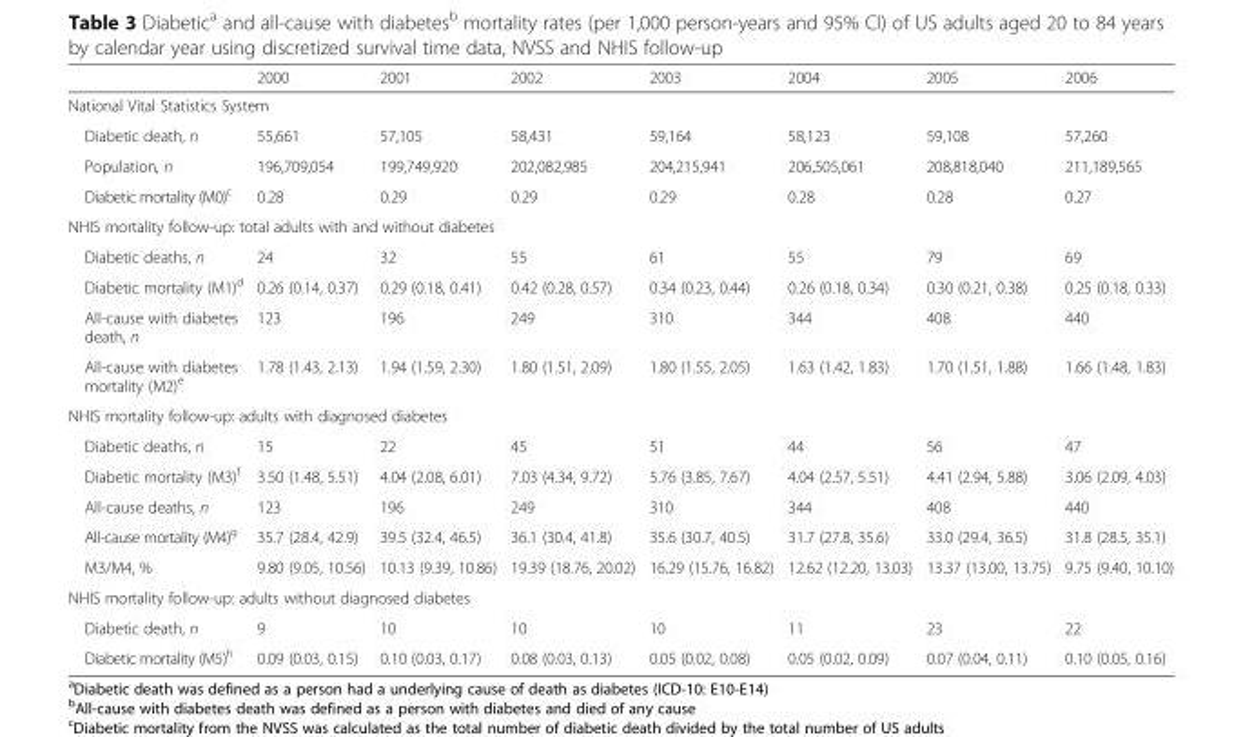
<table><thead><tr><td></td><td>2000</td><td>2001</td><td>2002</td><td>2003</td><td>2004</td><td>2005</td><td>2006</td></tr></thead><tbody><tr><td colspan="8">National Vital Statistics System</td></tr><tr><td>Diabetic death, n</td><td>55,661</td><td>57,105</td><td>58,431</td><td>59,164</td><td>58,123</td><td>59,108</td><td>57,260</td></tr><tr><td>Population, n</td><td>196,709,054</td><td>199,749,920</td><td>202,082,985</td><td>204,215,941</td><td>206,505,061</td><td>208,818,040</td><td>211,189,565</td></tr><tr><td>Diabetic mortality (M0)<sup>c</sup></td><td>0.28</td><td>0.29</td><td>0.29</td><td>0.29</td><td>0.28</td><td>0.28</td><td>0.27</td></tr><tr><td colspan="8">NHIS mortality follow-up: total adults with and without diabetes</td></tr><tr><td>Diabetic deaths, n</td><td>24</td><td>32</td><td>55</td><td>61</td><td>55</td><td>79</td><td>69</td></tr><tr><td>Diabetic mortality (M1)<sup>d</sup></td><td>0.26 (0.14, 0.37)</td><td>0.29 (0.18, 0.41)</td><td>0.42 (0.28, 0.57)</td><td>0.34 (0.23, 0.44)</td><td>0.26 (0.18, 0.34)</td><td>0.30 (0.21, 0.38)</td><td>0.25 (0.18, 0.33)</td></tr><tr><td>All-cause with diabetes death, n</td><td>123</td><td>196</td><td>249</td><td>310</td><td>344</td><td>408</td><td>440</td></tr><tr><td>All-cause with diabetes mortality (M2)<sup>e</sup></td><td>1.78 (1.43, 2.13)</td><td>1.94 (1.59, 2.30)</td><td>1.80 (1.51, 2.09)</td><td>1.80 (1.55, 2.05)</td><td>1.63 (1.42, 1.83)</td><td>1.70 (1.51, 1.88)</td><td>1.66 (1.48, 1.83)</td></tr><tr><td colspan="8">NHIS mortality follow-up: adults with diagnosed diabetes</td></tr><tr><td>Diabetic deaths, n</td><td>15</td><td>22</td><td>45</td><td>51</td><td>44</td><td>56</td><td>47</td></tr><tr><td>Diabetic mortality (M3)<sup>f</sup></td><td>3.50 (1.48, 5.51)</td><td>4.04 (2.08, 6.01)</td><td>7.03 (4.34, 9.72)</td><td>5.76 (3.85, 7.67)</td><td>4.04 (2.57, 5.51)</td><td>4.41 (2.94, 5.88)</td><td>3.06 (2.09, 4.03)</td></tr><tr><td>All-cause deaths, n</td><td>123</td><td>196</td><td>249</td><td>310</td><td>344</td><td>408</td><td>440</td></tr><tr><td>All-cause mortality (M4)<sup>g</sup></td><td>35.7 (28.4, 42.9)</td><td>39.5 (32.4, 46.5)</td><td>36.1 (30.4, 41.8)</td><td>35.6 (30.7, 40.5)</td><td>31.7 (27.8, 35.6)</td><td>33.0 (29.4, 36.5)</td><td>31.8 (28.5, 35.1)</td></tr><tr><td>M3/M4, %</td><td>9.80 (9.05, 10.56)</td><td>10.13 (9.39, 10.86)</td><td>19.39 (18.76, 20.02)</td><td>16.29 (15.76, 16.82)</td><td>12.62 (12.20, 13.03)</td><td>13.37 (13.00, 13.75)</td><td>9.75 (9.40, 10.10)</td></tr><tr><td colspan="8">NHIS mortality follow-up: adults without diagnosed diabetes</td></tr><tr><td>Diabetic death, n</td><td>9</td><td>10</td><td>10</td><td>10</td><td>11</td><td>23</td><td>22</td></tr><tr><td>Diabetic mortality (M5)<sup>h</sup></td><td>0.09 (0.03, 0.15)</td><td>0.10 (0.03, 0.17)</td><td>0.08 (0.03, 0.13)</td><td>0.05 (0.02, 0.08)</td><td>0.05 (0.02, 0.09)</td><td>0.07 (0.04, 0.11)</td><td>0.10 (0.05, 0.16)</td></tr></tbody></table>